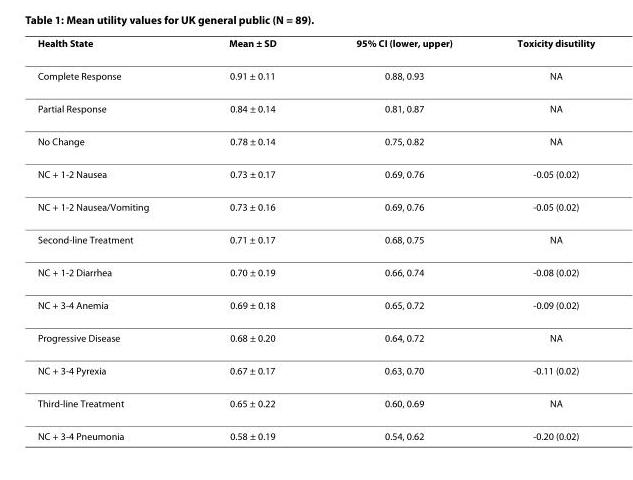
<table><thead><tr><td>Health State</td><td>Mean ± SD</td><td>95% CI (lower, upper)</td><td>Toxicity disutility</td></tr></thead><tbody><tr><td>Complete Response</td><td>0.91 ± 0.11</td><td>0.88, 0.93</td><td>NA</td></tr><tr><td>Partial Response</td><td>0.84 ± 0.14</td><td>0.81, 0.87</td><td>NA</td></tr><tr><td>No Change</td><td>0.78 ± 0.14</td><td>0.75, 0.82</td><td>NA</td></tr><tr><td>NC + 1-2 Nausea</td><td>0.73 ± 0.17</td><td>0.69, 0.76</td><td>-0.05 (0.02)</td></tr><tr><td>NC + 1-2 Nausea/Vomiting</td><td>0.73 ± 0.16</td><td>0.69, 0.76</td><td>-0.05 (0.02)</td></tr><tr><td>Second-line Treatment</td><td>0.71 ± 0.17</td><td>0.68, 0.75</td><td>NA</td></tr><tr><td>NC + 1-2 Diarrhea</td><td>0.70 ± 0.19</td><td>0.66, 0.74</td><td>-0.08 (0.02)</td></tr><tr><td>NC + 3-4 Anemia</td><td>0.69 ± 0.18</td><td>0.65, 0.72</td><td>-0.09 (0.02)</td></tr><tr><td>Progressive Disease</td><td>0.68 ± 0.20</td><td>0.64, 0.72</td><td>NA</td></tr><tr><td>NC + 3-4 Pyrexia</td><td>0.67 ± 0.17</td><td>0.63, 0.70</td><td>-0.11 (0.02)</td></tr><tr><td>Third-line Treatment</td><td>0.65 ± 0.22</td><td>0.60, 0.69</td><td>NA</td></tr><tr><td>NC + 3-4 Pneumonia</td><td>0.58 ± 0.19</td><td>0.54, 0.62</td><td>-0.20 (0.02)</td></tr></tbody></table>